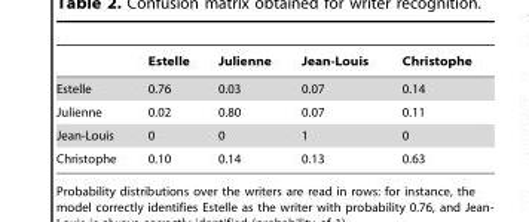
<table><thead><tr><td></td><td>Estelle</td><td>Julienne</td><td>Jean-Louis</td><td>Christophe</td></tr></thead><tbody><tr><td>Estelle</td><td>0.76</td><td>0.03</td><td>0.07</td><td>0.14</td></tr><tr><td>Julienne</td><td>0.02</td><td>0.80</td><td>0.07</td><td>0.11</td></tr><tr><td>Jean-Louis</td><td>0</td><td>0</td><td>1</td><td>0</td></tr><tr><td>Christophe</td><td>0.10</td><td>0.14</td><td>0.13</td><td>0.63</td></tr></tbody></table>